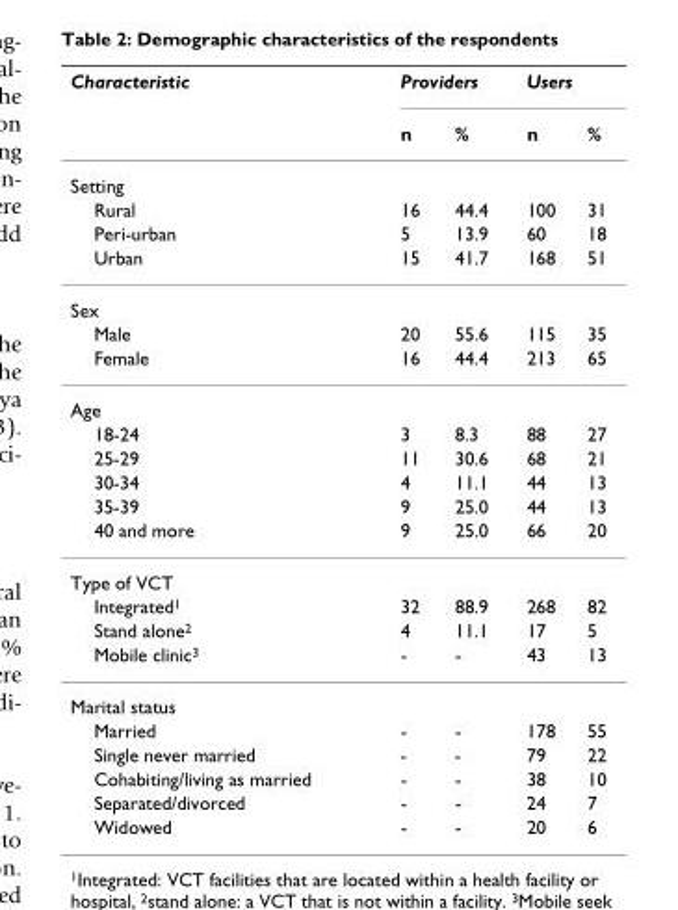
<table><thead><tr><td rowspan="2">Characteristic</td><td colspan="2">Providers</td><td colspan="2">Users</td></tr><tr><td>n</td><td>%</td><td>n</td><td>%</td></tr></thead><tbody><tr><td colspan="5">Setting</td></tr><tr><td>Rural</td><td>16</td><td>44.4</td><td>100</td><td>31</td></tr><tr><td>Peri-urban</td><td>5</td><td>13.9</td><td>60</td><td>18</td></tr><tr><td>Urban</td><td>15</td><td>41.7</td><td>168</td><td>51</td></tr><tr><td colspan="5">Sex</td></tr><tr><td>Male</td><td>20</td><td>55.6</td><td>115</td><td>35</td></tr><tr><td>Female</td><td>16</td><td>44.4</td><td>213</td><td>65</td></tr><tr><td colspan="5">Age</td></tr><tr><td>18-24</td><td>3</td><td>8.3</td><td>88</td><td>27</td></tr><tr><td>25-29</td><td>11</td><td>30.6</td><td>68</td><td>21</td></tr><tr><td>30-34</td><td>4</td><td>11.1</td><td>44</td><td>13</td></tr><tr><td>35-39</td><td>9</td><td>25.0</td><td>44</td><td>13</td></tr><tr><td>40 and more</td><td>9</td><td>25.0</td><td>66</td><td>20</td></tr><tr><td colspan="5">Type of VCT</td></tr><tr><td>Integrated<sup>1</sup></td><td>32</td><td>88.9</td><td>268</td><td>82</td></tr><tr><td>Stand alone<sup>2</sup></td><td>4</td><td>11.1</td><td>17</td><td>5</td></tr><tr><td>Mobile clinic<sup>3</sup></td><td>-</td><td>-</td><td>43</td><td>13</td></tr><tr><td colspan="5">Marital status</td></tr><tr><td>Married</td><td>-</td><td>-</td><td>178</td><td>55</td></tr><tr><td>Single never married</td><td>-</td><td>-</td><td>79</td><td>22</td></tr><tr><td>Cohabiting/living as married</td><td>-</td><td>-</td><td>38</td><td>10</td></tr><tr><td>Separated/divorced</td><td>-</td><td>-</td><td>24</td><td>7</td></tr><tr><td>Widowed</td><td>-</td><td>-</td><td>20</td><td>6</td></tr></tbody></table>